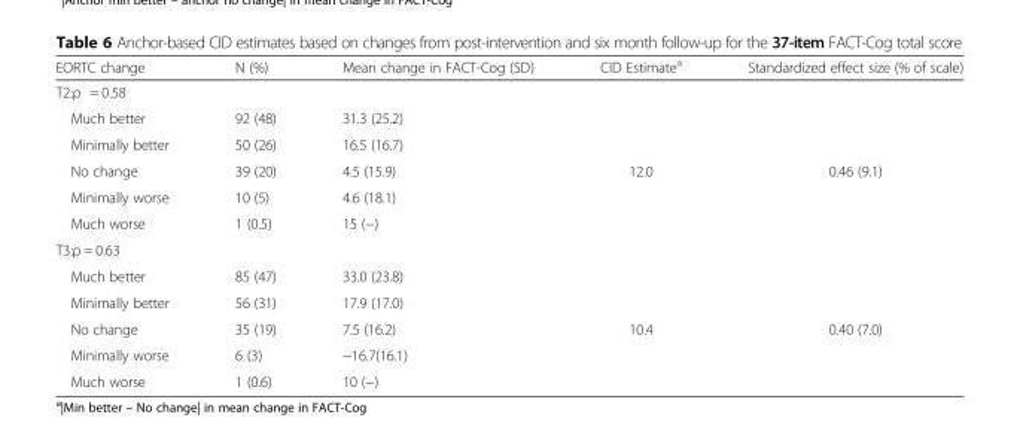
<table><thead><tr><td>EORTC change</td><td>N (%)</td><td>Mean change in FACT-Cog (SD)</td><td>CID Estimate<sup>a</sup></td><td>Standardized effect size (% of scale)</td></tr></thead><tbody><tr><td colspan="5">T2:ρ = 0.58</td></tr><tr><td>Much better</td><td>92 (48)</td><td>31.3 (25.2)</td><td></td><td></td></tr><tr><td>Minimally better</td><td>50 (26)</td><td>16.5 (16.7)</td><td></td><td></td></tr><tr><td>No change</td><td>39 (20)</td><td>4.5 (15.9)</td><td>12.0</td><td>0.46 (9.1)</td></tr><tr><td>Minimally worse</td><td>10 (5)</td><td>4.6 (18.1)</td><td></td><td></td></tr><tr><td>Much worse</td><td>1 (0.5)</td><td>15 (−)</td><td></td><td></td></tr><tr><td colspan="5">T3:ρ = 0.63</td></tr><tr><td>Much better</td><td>85 (47)</td><td>33.0 (23.8)</td><td></td><td></td></tr><tr><td>Minimally better</td><td>56 (31)</td><td>17.9 (17.0)</td><td></td><td></td></tr><tr><td>No change</td><td>35 (19)</td><td>7.5 (16.2)</td><td>10.4</td><td>0.40 (7.0)</td></tr><tr><td>Minimally worse</td><td>6 (3)</td><td>−16.7(16.1)</td><td></td><td></td></tr><tr><td>Much worse</td><td>1 (0.6)</td><td>10 (−)</td><td></td><td></td></tr></tbody></table>